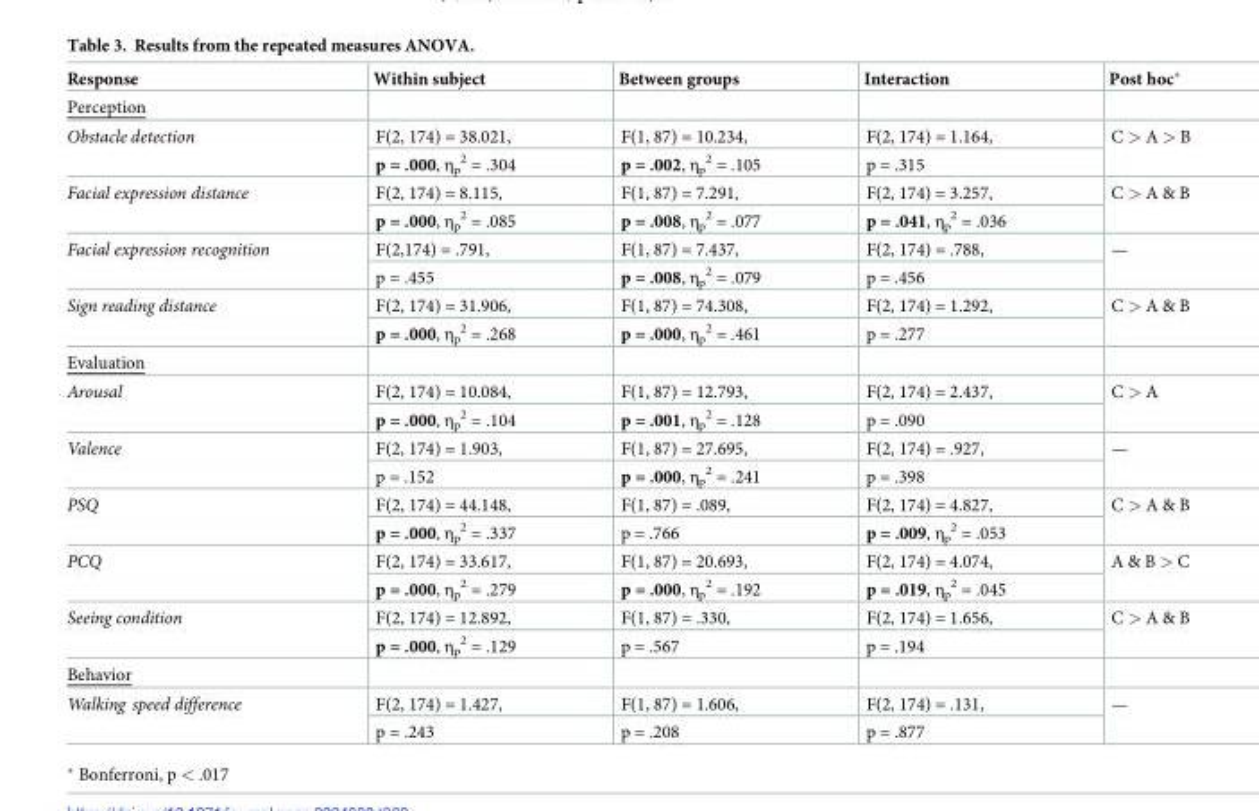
<table><thead><tr><td>Response</td><td>Within subject</td><td>Between groups</td><td>Interaction</td><td>Post hoc*</td></tr></thead><tbody><tr><td colspan="5">Perception</td></tr><tr><td rowspan="2">Obstacle detection</td><td>F(2, 174) = 38.021,</td><td>F(1, 87) = 10.234,</td><td>F(2, 174) = 1.164,</td><td rowspan="2">C &gt; A &gt; B</td></tr><tr><td>p = .000, η<sub>p</sub> <sup>2</sup> = .304</td><td>p = .002, η<sub>p</sub> <sup>2</sup> = .105</td><td>p = .315</td></tr><tr><td rowspan="2">Facial expression distance</td><td>F(2, 174) = 8.115,</td><td>F(1, 87) = 7.291,</td><td>F(2, 174) = 3.257,</td><td rowspan="2">C &gt; A &amp; B</td></tr><tr><td>p = .000, η<sub>p</sub> <sup>2</sup> = .085</td><td>p = .008, η<sub>p</sub> <sup>2</sup> = .077</td><td>p = .041, η<sub>p</sub> <sup>2</sup> = .036</td></tr><tr><td rowspan="2">Facial expression recognition</td><td>F(2,174) = .791,</td><td>F(1, 87) = 7.437,</td><td>F(2, 174) = .788,</td><td rowspan="2">—</td></tr><tr><td>p = .455</td><td>p = .008, η<sub>p</sub> <sup>2</sup> = .079</td><td>p = .456</td></tr><tr><td rowspan="2">Sign reading distance</td><td>F(2, 174) = 31.906,</td><td>F(1, 87) = 74.308,</td><td>F(2, 174) = 1.292,</td><td rowspan="2">C &gt; A &amp; B</td></tr><tr><td>p = .000, η<sub>p</sub> <sup>2</sup> = .268</td><td>p = .000, η<sub>p</sub> <sup>2</sup> = .461</td><td>p = .277</td></tr><tr><td colspan="5">Evaluation</td></tr><tr><td rowspan="2">Arousal</td><td>F(2, 174) = 10.084,</td><td>F(1, 87) = 12.793,</td><td>F(2, 174) = 2.437,</td><td rowspan="2">C &gt; A</td></tr><tr><td>p = .000, η<sub>p</sub> <sup>2</sup> = .104</td><td>p = .001, η<sub>p</sub> <sup>2</sup> = .128</td><td>p = .090</td></tr><tr><td rowspan="2">Valence</td><td>F(2, 174) = 1.903,</td><td>F(1, 87) = 27.695,</td><td>F(2, 174) = .927,</td><td rowspan="2">—</td></tr><tr><td>p = .152</td><td>p = .000, η<sub>p</sub> <sup>2</sup> = .241</td><td>p = .398</td></tr><tr><td rowspan="2">PSQ</td><td>F(2, 174) = 44.148,</td><td>F(1, 87) = .089,</td><td>F(2, 174) = 4.827,</td><td rowspan="2">C &gt; A &amp; B</td></tr><tr><td>p = .000, η<sub>p</sub> <sup>2</sup> = .337</td><td>p = .766</td><td>p = .009, η<sub>p</sub> <sup>2</sup> = .053</td></tr><tr><td rowspan="2">PCQ</td><td>F(2, 174) = 33.617,</td><td>F(1, 87) = 20.693,</td><td>F(2, 174) = 4.074,</td><td rowspan="2">A &amp; B &gt; C</td></tr><tr><td>p = .000, η<sub>p</sub> <sup>2</sup> = .279</td><td>p = .000, η<sub>p</sub> <sup>2</sup> = .192</td><td>p = .019, η<sub>p</sub> <sup>2</sup> = .045</td></tr><tr><td rowspan="2">Seeing condition</td><td>F(2, 174) = 12.892,</td><td>F(1, 87) = .330,</td><td>F(2, 174) = 1.656,</td><td rowspan="2">C &gt; A &amp; B</td></tr><tr><td>p = .000, η<sub>p</sub> <sup>2</sup> = .129</td><td>p = .567</td><td>p = .194</td></tr><tr><td colspan="5">Behavior</td></tr><tr><td rowspan="2">Walking speed difference</td><td>F(2, 174) = 1.427,</td><td>F(1, 87) = 1.606,</td><td>F(2, 174) = .131,</td><td rowspan="2">—</td></tr><tr><td>p = .243</td><td>p = .208</td><td>p = .877</td></tr></tbody></table>